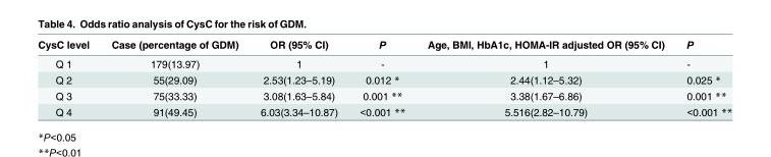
<table><thead><tr><td>CysC level</td><td>Case (percentage of GDM)</td><td>OR (95% CI)</td><td>P</td><td>Age, BMI, HbA1c, HOMA-IR adjusted OR (95% CI)</td><td>P</td></tr></thead><tbody><tr><td>Q 1</td><td>179(13.97)</td><td>1</td><td>-</td><td>1</td><td>-</td></tr><tr><td>Q 2</td><td>55(29.09)</td><td>2.53(1.23–5.19)</td><td>0.012 *</td><td>2.44(1.12–5.32)</td><td>0.025 *</td></tr><tr><td>Q 3</td><td>75(33.33)</td><td>3.08(1.63–5.84)</td><td>0.001 **</td><td>3.38(1.67–6.86)</td><td>0.001 **</td></tr><tr><td>Q 4</td><td>91(49.45)</td><td>6.03(3.34–10.87)</td><td>&lt;0.001 **</td><td>5.516(2.82–10.79)</td><td>&lt;0.001 **</td></tr></tbody></table>